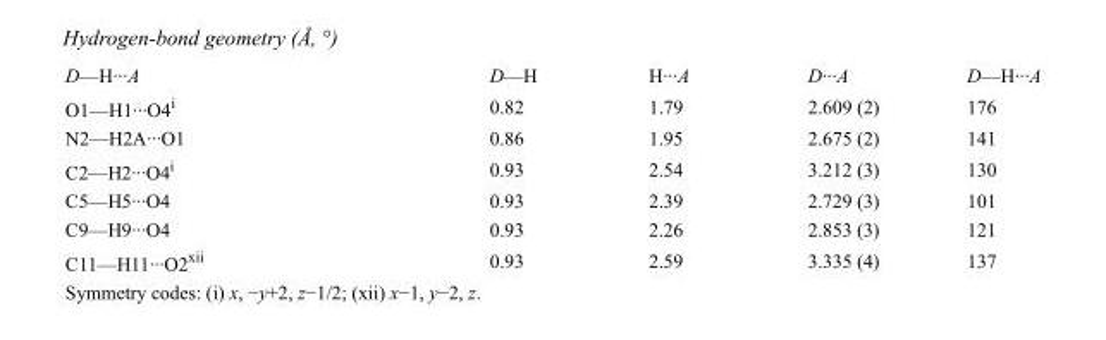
<table><tbody><tr><td>D—H···A</td><td>D—H</td><td>H···A</td><td>D···A</td><td>D—H···A</td></tr><tr><td>O1—H1···O4<sup>i</sup></td><td>0.82</td><td>1.79</td><td>2.609 (2)</td><td>176</td></tr><tr><td>N2—H2A···O1</td><td>0.86</td><td>1.95</td><td>2.675 (2)</td><td>141</td></tr><tr><td>C2—H2···O4<sup>i</sup></td><td>0.93</td><td>2.54</td><td>3.212 (3)</td><td>130</td></tr><tr><td>C5—H5···O4</td><td>0.93</td><td>2.39</td><td>2.729 (3)</td><td>101</td></tr><tr><td>C9—H9···O4</td><td>0.93</td><td>2.26</td><td>2.853 (3)</td><td>121</td></tr><tr><td>C11—H11···O2<sup>xii</sup></td><td>0.93</td><td>2.59</td><td>3.335 (4)</td><td>137</td></tr></tbody></table>